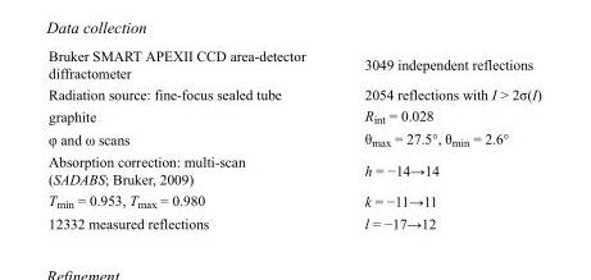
<table><tbody><tr><td>Bruker SMART APEXII CCD area-detector diffractometer</td><td>3049 independent reflections</td></tr><tr><td>Radiation source: fine-focus sealed tube</td><td>2054 reflections with I &gt; 2σ(I)</td></tr><tr><td>graphite</td><td>R<sub>int</sub> = 0.028</td></tr><tr><td>φ and ω scans</td><td>θ<sub>max</sub> = 27.5°, θ<sub>min</sub> = 2.6°</td></tr><tr><td>Absorption correction: multi-scan (SADABS; Bruker, 2009)</td><td>h = −14→14</td></tr><tr><td>T<sub>min</sub> = 0.953, T<sub>max</sub> = 0.980</td><td>k = −11→11</td></tr><tr><td>12332 measured reflections</td><td>l = −17→12</td></tr></tbody></table>